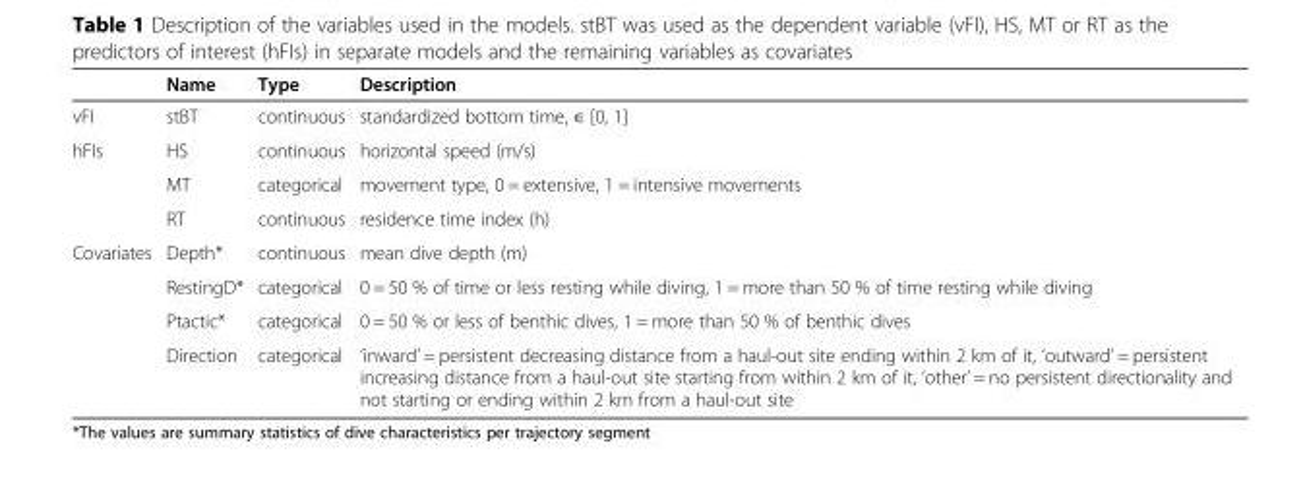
<table><thead><tr><td></td><td>Name</td><td>Type</td><td>Description</td></tr></thead><tbody><tr><td>vFI</td><td>stBT</td><td>continuous</td><td>standardized bottom time, ∈ [0, 1]</td></tr><tr><td rowspan="3">hFIs</td><td>HS</td><td>continuous</td><td>horizontal speed (m/s)</td></tr><tr><td>MT</td><td>categorical</td><td>movement type, 0 = extensive, 1 = intensive movements</td></tr><tr><td>RT</td><td>continuous</td><td>residence time index (h)</td></tr><tr><td rowspan="4">Covariates</td><td>Depth*</td><td>continuous</td><td>mean dive depth (m)</td></tr><tr><td>RestingD*</td><td>categorical</td><td>0 = 50 % of time or less resting while diving, 1 = more than 50 % of time resting while diving</td></tr><tr><td>Ptactic*</td><td>categorical</td><td>0 = 50 % or less of benthic dives, 1 = more than 50 % of benthic dives</td></tr><tr><td>Direction</td><td>categorical</td><td>‘inward’ = persistent decreasing distance from a haul-out site ending within 2 km of it, ‘outward’ = persistent increasing distance from a haul-out site starting from within 2 km of it, ‘other’ = no persistent directionality and not starting or ending within 2 km from a haul-out site</td></tr></tbody></table>